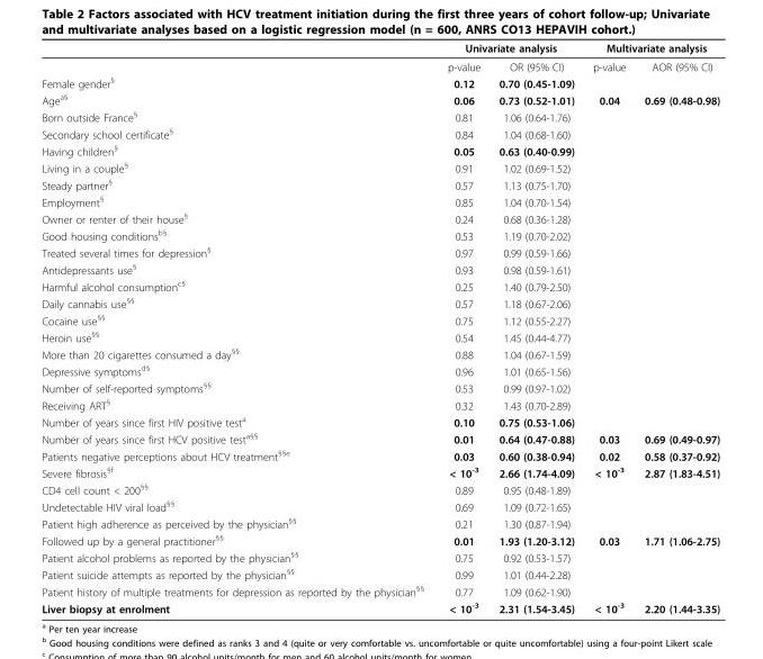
<table><thead><tr><td rowspan="2"></td><td colspan="2">Univariate analysis</td><td colspan="2">Multivariate analysis</td></tr><tr><td>p-value</td><td>OR (95% CI)</td><td>p-value</td><td>AOR (95% CI)</td></tr></thead><tbody><tr><td>Female gender<sup>§</sup></td><td>0.12</td><td>0.70 (0.45-1.09)</td><td></td><td></td></tr><tr><td>Age<sup>a§</sup></td><td>0.06</td><td>0.73 (0.52-1.01)</td><td>0.04</td><td>0.69 (0.48-0.98)</td></tr><tr><td>Born outside France<sup>§</sup></td><td>0.81</td><td>1.06 (0.64-1.76)</td><td></td><td></td></tr><tr><td>Secondary school certificate<sup>§</sup></td><td>0.84</td><td>1.04 (0.68-1.60)</td><td></td><td></td></tr><tr><td>Having children<sup>§</sup></td><td>0.05</td><td>0.63 (0.40-0.99)</td><td></td><td></td></tr><tr><td>Living in a couple<sup>§</sup></td><td>0.91</td><td>1.02 (0.69-1.52)</td><td></td><td></td></tr><tr><td>Steady partner<sup>§</sup></td><td>0.57</td><td>1.13 (0.75-1.70)</td><td></td><td></td></tr><tr><td>Employment<sup>§</sup></td><td>0.85</td><td>1.04 (0.70-1.54)</td><td></td><td></td></tr><tr><td>Owner or renter of their house<sup>§</sup></td><td>0.24</td><td>0.68 (0.36-1.28)</td><td></td><td></td></tr><tr><td>Good housing conditions<sup>b§</sup></td><td>0.53</td><td>1.19 (0.70-2.02)</td><td></td><td></td></tr><tr><td>Treated several times for depression<sup>§</sup></td><td>0.97</td><td>0.99 (0.59-1.66)</td><td></td><td></td></tr><tr><td>Antidepressants use<sup>§</sup></td><td>0.93</td><td>0.98 (0.59-1.61)</td><td></td><td></td></tr><tr><td>Harmful alcohol consumption<sup>c§</sup></td><td>0.25</td><td>1.40 (0.79-2.50)</td><td></td><td></td></tr><tr><td>Daily cannabis use<sup>§§</sup></td><td>0.57</td><td>1.18 (0.67-2.06)</td><td></td><td></td></tr><tr><td>Cocaine use<sup>§§</sup></td><td>0.75</td><td>1.12 (0.55-2.27)</td><td></td><td></td></tr><tr><td>Heroin use<sup>§§</sup></td><td>0.54</td><td>1.45 (0.44-4.77)</td><td></td><td></td></tr><tr><td>More than 20 cigarettes consumed a day<sup>§§</sup></td><td>0.88</td><td>1.04 (0.67-1.59)</td><td></td><td></td></tr><tr><td>Depressive symptoms<sup>d§</sup></td><td>0.96</td><td>1.01 (0.65-1.56)</td><td></td><td></td></tr><tr><td>Number of self-reported symptoms<sup>§§</sup></td><td>0.53</td><td>0.99 (0.97-1.02)</td><td></td><td></td></tr><tr><td>Receiving ART<sup>§</sup></td><td>0.32</td><td>1.43 (0.70-2.89)</td><td></td><td></td></tr><tr><td>Number of years since first HIV positive test<sup>a</sup></td><td>0.10</td><td>0.75 (0.53-1.06)</td><td></td><td></td></tr><tr><td>Number of years since first HCV positive test<sup>a§§</sup></td><td>0.01</td><td>0.64 (0.47-0.88)</td><td>0.03</td><td>0.69 (0.49-0.97)</td></tr><tr><td>Patients negative perceptions about HCV treatment<sup>§§e</sup></td><td>0.03</td><td>0.60 (0.38-0.94)</td><td>0.02</td><td>0.58 (0.37-0.92)</td></tr><tr><td>Severe fibrosis<sup>§f</sup></td><td>&lt; 10<sup>-3</sup></td><td>2.66 (1.74-4.09)</td><td>&lt; 10<sup>-3</sup></td><td>2.87 (1.83-4.51)</td></tr><tr><td>CD4 cell count &lt; 200<sup>§§</sup></td><td>0.89</td><td>0.95 (0.48-1.89)</td><td></td><td></td></tr><tr><td>Undetectable HIV viral load<sup>§§</sup></td><td>0.69</td><td>1.09 (0.72-1.65)</td><td></td><td></td></tr><tr><td>Patient high adherence as perceived by the physician<sup>§§</sup></td><td>0.21</td><td>1.30 (0.87-1.94)</td><td></td><td></td></tr><tr><td>Followed up by a general practitioner<sup>§§</sup></td><td>0.01</td><td>1.93 (1.20-3.12)</td><td>0.03</td><td>1.71 (1.06-2.75)</td></tr><tr><td>Patient alcohol problems as reported by the physician<sup>§§</sup></td><td>0.75</td><td>0.92 (0.53-1.57)</td><td></td><td></td></tr><tr><td>Patient suicide attempts as reported by the physician<sup>§§</sup></td><td>0.99</td><td>1.01 (0.44-2.28)</td><td></td><td></td></tr><tr><td>Patient history of multiple treatments for depression as reported by the physician<sup>§§</sup></td><td>0.77</td><td>1.09 (0.62-1.90)</td><td></td><td></td></tr><tr><td>Liver biopsy at enrolment</td><td>&lt; 10<sup>-3</sup></td><td>2.31 (1.54-3.45)</td><td>&lt; 10<sup>-3</sup></td><td>2.20 (1.44-3.35)</td></tr></tbody></table>